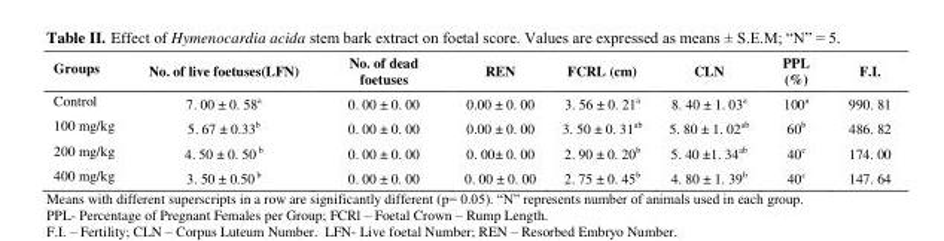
<table><thead><tr><td>Groups</td><td>No. of live foetuses(LFN)</td><td>No. of dead foetuses</td><td>REN</td><td>FCRL (cm)</td><td>CLN</td><td>PPL (%)</td><td>F.I.</td></tr></thead><tbody><tr><td>Control</td><td>7. 00 ± 0. 58<sup>a</sup></td><td>0. 00 ± 0. 00</td><td>0.00 ± 0. 00</td><td>3. 56 ± 0. 21<sup>a</sup></td><td>8. 40 ± 1. 03<sup>a</sup></td><td>100<sup>a</sup></td><td>990. 81</td></tr><tr><td>100 mg/kg</td><td>5. 67 ± 0.33<sup>b</sup></td><td>0. 00 ± 0. 00</td><td>0.00 ± 0. 00</td><td>3. 50 ± 0. 31<sup>ab</sup></td><td>5. 80 ± 1. 02<sup>ab</sup></td><td>60<sup>b</sup></td><td>486. 82</td></tr><tr><td>200 mg/kg</td><td>4. 50 ± 0. 50 <sup>b</sup></td><td>0. 00 ± 0. 00</td><td>0. 00± 0. 00</td><td>2. 90 ± 0. 20<sup>b</sup></td><td>5. 40 ±1. 34<sup>ab</sup></td><td>40<sup>c</sup></td><td>174. 00</td></tr><tr><td>400 mg/kg</td><td>3. 50 ± 0.50 <sup>b</sup></td><td>0. 00 ± 0. 00</td><td>0. 00 ± 0. 00</td><td>2. 75 ± 0. 45<sup>b</sup></td><td>4. 80 ± 1. 39<sup>b</sup></td><td>40<sup>c</sup></td><td>147. 64</td></tr></tbody></table>